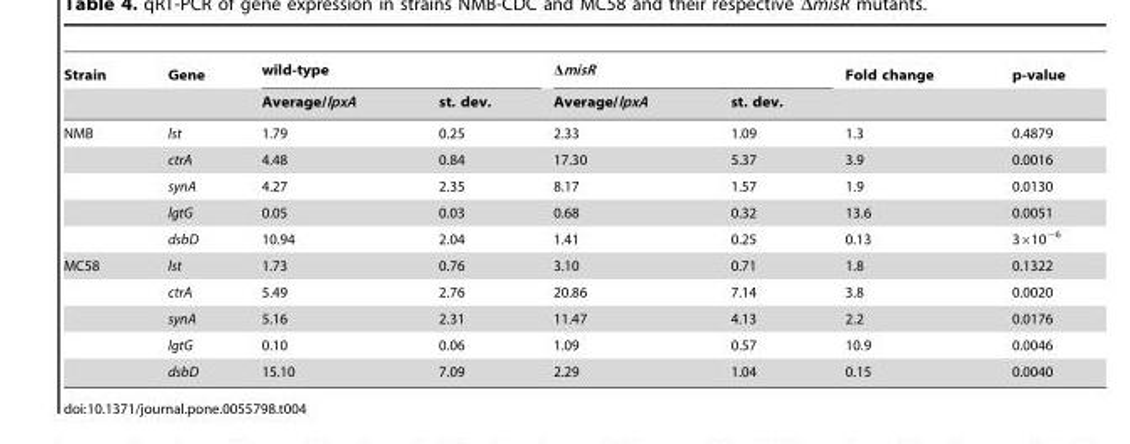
<table><thead><tr><td rowspan="2">Strain</td><td rowspan="2">Gene</td><td colspan="2">wild-type</td><td colspan="2">ΔmisR</td><td rowspan="2">Fold change</td><td rowspan="2">p-value</td></tr><tr><td>Average/lpxA</td><td>st. dev.</td><td>Average/lpxA</td><td>st. dev.</td></tr></thead><tbody><tr><td rowspan="5">NMB</td><td>lst</td><td>1.79</td><td>0.25</td><td>2.33</td><td>1.09</td><td>1.3</td><td>0.4879</td></tr><tr><td>ctrA</td><td>4.48</td><td>0.84</td><td>17.30</td><td>5.37</td><td>3.9</td><td>0.0016</td></tr><tr><td>synA</td><td>4.27</td><td>2.35</td><td>8.17</td><td>1.57</td><td>1.9</td><td>0.0130</td></tr><tr><td>lgtG</td><td>0.05</td><td>0.03</td><td>0.68</td><td>0.32</td><td>13.6</td><td>0.0051</td></tr><tr><td>dsbD</td><td>10.94</td><td>2.04</td><td>1.41</td><td>0.25</td><td>0.13</td><td>3×10<sup>−6</sup></td></tr><tr><td rowspan="5">MC58</td><td>lst</td><td>1.73</td><td>0.76</td><td>3.10</td><td>0.71</td><td>1.8</td><td>0.1322</td></tr><tr><td>ctrA</td><td>5.49</td><td>2.76</td><td>20.86</td><td>7.14</td><td>3.8</td><td>0.0020</td></tr><tr><td>synA</td><td>5.16</td><td>2.31</td><td>11.47</td><td>4.13</td><td>2.2</td><td>0.0176</td></tr><tr><td>lgtG</td><td>0.10</td><td>0.06</td><td>1.09</td><td>0.57</td><td>10.9</td><td>0.0046</td></tr><tr><td>dsbD</td><td>15.10</td><td>7.09</td><td>2.29</td><td>1.04</td><td>0.15</td><td>0.0040</td></tr></tbody></table>